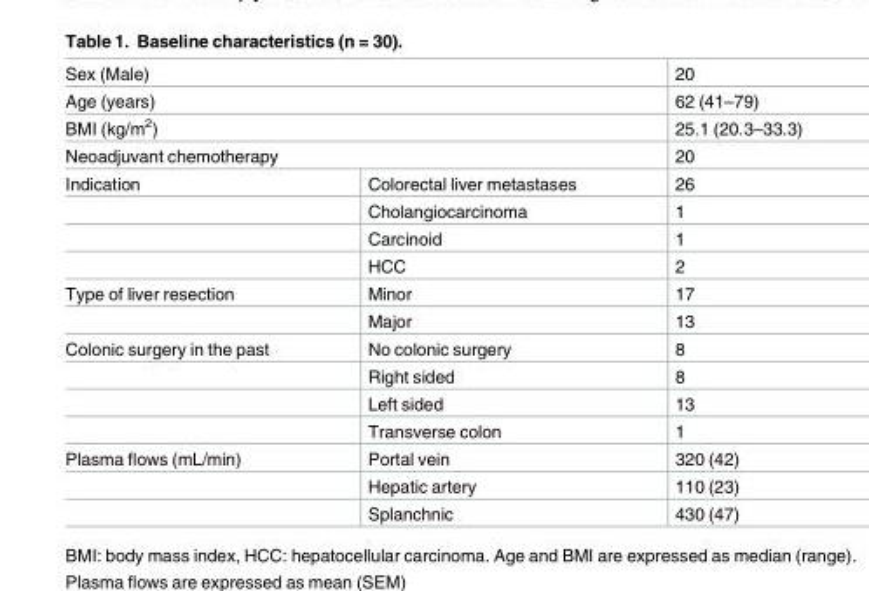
<table><tbody><tr><td colspan="2">Sex (Male)</td><td>20</td></tr><tr><td colspan="2">Age (years)</td><td>62 (41–79)</td></tr><tr><td colspan="2">BMI (kg/m<sup>2</sup>)</td><td>25.1 (20.3–33.3)</td></tr><tr><td colspan="2">Neoadjuvant chemotherapy</td><td>20</td></tr><tr><td rowspan="4">Indication</td><td>Colorectal liver metastases</td><td>26</td></tr><tr><td>Cholangiocarcinoma</td><td>1</td></tr><tr><td>Carcinoid</td><td>1</td></tr><tr><td>HCC</td><td>2</td></tr><tr><td rowspan="2">Type of liver resection</td><td>Minor</td><td>17</td></tr><tr><td>Major</td><td>13</td></tr><tr><td rowspan="4">Colonic surgery in the past</td><td>No colonic surgery</td><td>8</td></tr><tr><td>Right sided</td><td>8</td></tr><tr><td>Left sided</td><td>13</td></tr><tr><td>Transverse colon</td><td>1</td></tr><tr><td rowspan="3">Plasma flows (mL/min)</td><td>Portal vein</td><td>320 (42)</td></tr><tr><td>Hepatic artery</td><td>110 (23)</td></tr><tr><td>Splanchnic</td><td>430 (47)</td></tr></tbody></table>